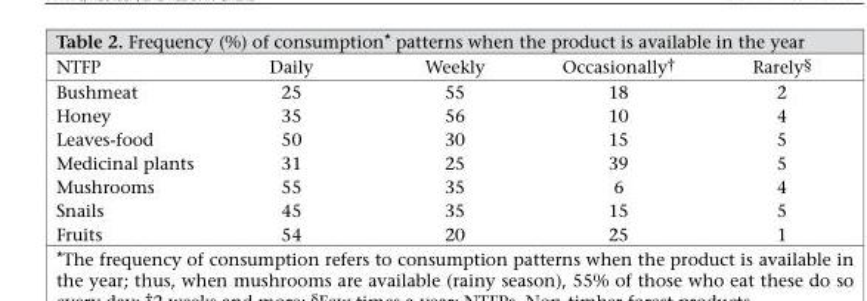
<table><thead><tr><td>NTFP</td><td>Daily</td><td>Weekly</td><td>Occasionally†</td><td>Rarely§</td></tr></thead><tbody><tr><td>Bushmeat</td><td>25</td><td>55</td><td>18</td><td>2</td></tr><tr><td>Honey</td><td>35</td><td>56</td><td>10</td><td>4</td></tr><tr><td>Leaves-food</td><td>50</td><td>30</td><td>15</td><td>5</td></tr><tr><td>Medicinal plants</td><td>31</td><td>25</td><td>39</td><td>5</td></tr><tr><td>Mushrooms</td><td>55</td><td>35</td><td>6</td><td>4</td></tr><tr><td>Snails</td><td>45</td><td>35</td><td>15</td><td>5</td></tr><tr><td>Fruits</td><td>54</td><td>20</td><td>25</td><td>1</td></tr></tbody></table>